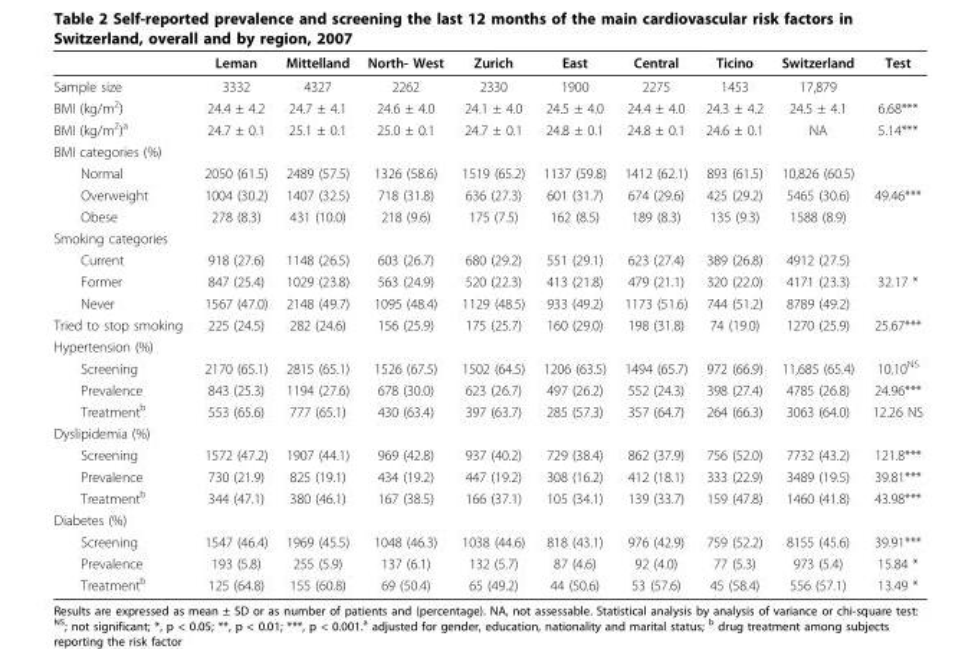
<table><thead><tr><td></td><td>Leman</td><td>Mittelland</td><td>North- West</td><td>Zurich</td><td>East</td><td>Central</td><td>Ticino</td><td>Switzerland</td><td>Test</td></tr></thead><tbody><tr><td>Sample size</td><td>3332</td><td>4327</td><td>2262</td><td>2330</td><td>1900</td><td>2275</td><td>1453</td><td>17,879</td><td></td></tr><tr><td>BMI (kg/m<sup>2</sup>)</td><td>24.4 ± 4.2</td><td>24.7 ± 4.1</td><td>24.6 ± 4.0</td><td>24.1 ± 4.0</td><td>24.5 ± 4.0</td><td>24.4 ± 4.0</td><td>24.3 ± 4.2</td><td>24.5 ± 4.1</td><td>6.68***</td></tr><tr><td>BMI (kg/m<sup>2</sup>)<sup>a</sup></td><td>24.7 ± 0.1</td><td>25.1 ± 0.1</td><td>25.0 ± 0.1</td><td>24.7 ± 0.1</td><td>24.8 ± 0.1</td><td>24.8 ± 0.1</td><td>24.6 ± 0.1</td><td>NA</td><td>5.14***</td></tr><tr><td colspan="10">BMI categories (%)</td></tr><tr><td>Normal</td><td>2050 (61.5)</td><td>2489 (57.5)</td><td>1326 (58.6)</td><td>1519 (65.2)</td><td>1137 (59.8)</td><td>1412 (62.1)</td><td>893 (61.5)</td><td>10,826 (60.5)</td><td></td></tr><tr><td>Overweight</td><td>1004 (30.2)</td><td>1407 (32.5)</td><td>718 (31.8)</td><td>636 (27.3)</td><td>601 (31.7)</td><td>674 (29.6)</td><td>425 (29.2)</td><td>5465 (30.6)</td><td>49.46***</td></tr><tr><td>Obese</td><td>278 (8.3)</td><td>431 (10.0)</td><td>218 (9.6)</td><td>175 (7.5)</td><td>162 (8.5)</td><td>189 (8.3)</td><td>135 (9.3)</td><td>1588 (8.9)</td><td></td></tr><tr><td colspan="10">Smoking categories</td></tr><tr><td>Current</td><td>918 (27.6)</td><td>1148 (26.5)</td><td>603 (26.7)</td><td>680 (29.2)</td><td>551 (29.1)</td><td>623 (27.4)</td><td>389 (26.8)</td><td>4912 (27.5)</td><td></td></tr><tr><td>Former</td><td>847 (25.4)</td><td>1029 (23.8)</td><td>563 (24.9)</td><td>520 (22.3)</td><td>413 (21.8)</td><td>479 (21.1)</td><td>320 (22.0)</td><td>4171 (23.3)</td><td>32.17 *</td></tr><tr><td>Never</td><td>1567 (47.0)</td><td>2148 (49.7)</td><td>1095 (48.4)</td><td>1129 (48.5)</td><td>933 (49.2)</td><td>1173 (51.6)</td><td>744 (51.2)</td><td>8789 (49.2)</td><td></td></tr><tr><td>Tried to stop smoking</td><td>225 (24.5)</td><td>282 (24.6)</td><td>156 (25.9)</td><td>175 (25.7)</td><td>160 (29.0)</td><td>198 (31.8)</td><td>74 (19.0)</td><td>1270 (25.9)</td><td>25.67***</td></tr><tr><td colspan="10">Hypertension (%)</td></tr><tr><td>Screening</td><td>2170 (65.1)</td><td>2815 (65.1)</td><td>1526 (67.5)</td><td>1502 (64.5)</td><td>1206 (63.5)</td><td>1494 (65.7)</td><td>972 (66.9)</td><td>11,685 (65.4)</td><td>10.10<sup>NS</sup></td></tr><tr><td>Prevalence</td><td>843 (25.3)</td><td>1194 (27.6)</td><td>678 (30.0)</td><td>623 (26.7)</td><td>497 (26.2)</td><td>552 (24.3)</td><td>398 (27.4)</td><td>4785 (26.8)</td><td>24.96***</td></tr><tr><td>Treatment<sup>b</sup></td><td>553 (65.6)</td><td>777 (65.1)</td><td>430 (63.4)</td><td>397 (63.7)</td><td>285 (57.3)</td><td>357 (64.7)</td><td>264 (66.3)</td><td>3063 (64.0)</td><td>12.26 NS</td></tr><tr><td colspan="10">Dyslipidemia (%)</td></tr><tr><td>Screening</td><td>1572 (47.2)</td><td>1907 (44.1)</td><td>969 (42.8)</td><td>937 (40.2)</td><td>729 (38.4)</td><td>862 (37.9)</td><td>756 (52.0)</td><td>7732 (43.2)</td><td>121.8***</td></tr><tr><td>Prevalence</td><td>730 (21.9)</td><td>825 (19.1)</td><td>434 (19.2)</td><td>447 (19.2)</td><td>308 (16.2)</td><td>412 (18.1)</td><td>333 (22.9)</td><td>3489 (19.5)</td><td>39.81***</td></tr><tr><td>Treatment<sup>b</sup></td><td>344 (47.1)</td><td>380 (46.1)</td><td>167 (38.5)</td><td>166 (37.1)</td><td>105 (34.1)</td><td>139 (33.7)</td><td>159 (47.8)</td><td>1460 (41.8)</td><td>43.98***</td></tr><tr><td colspan="10">Diabetes (%)</td></tr><tr><td>Screening</td><td>1547 (46.4)</td><td>1969 (45.5)</td><td>1048 (46.3)</td><td>1038 (44.6)</td><td>818 (43.1)</td><td>976 (42.9)</td><td>759 (52.2)</td><td>8155 (45.6)</td><td>39.91***</td></tr><tr><td>Prevalence</td><td>193 (5.8)</td><td>255 (5.9)</td><td>137 (6.1)</td><td>132 (5.7)</td><td>87 (4.6)</td><td>92 (4.0)</td><td>77 (5.3)</td><td>973 (5.4)</td><td>15.84 *</td></tr><tr><td>Treatment<sup>b</sup></td><td>125 (64.8)</td><td>155 (60.8)</td><td>69 (50.4)</td><td>65 (49.2)</td><td>44 (50.6)</td><td>53 (57.6)</td><td>45 (58.4)</td><td>556 (57.1)</td><td>13.49 *</td></tr></tbody></table>